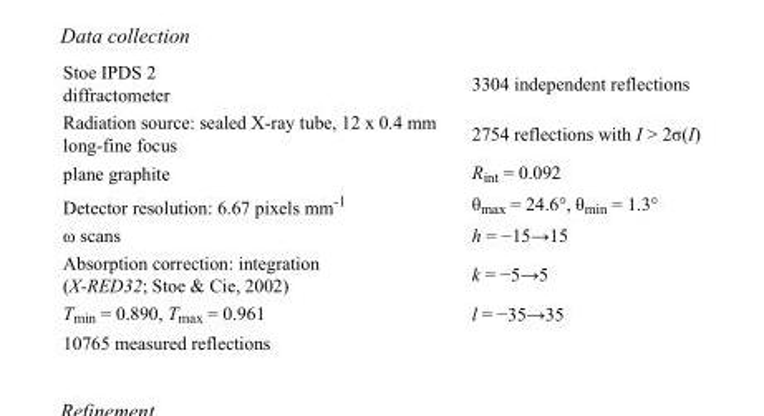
<table><tbody><tr><td>Stoe IPDS 2 diffractometer</td><td>3304 independent reflections</td></tr><tr><td>Radiation source: sealed X-ray tube, 12 x 0.4 mm long-fine focus</td><td>2754 reflections with I &gt; 2σ(I)</td></tr><tr><td>plane graphite</td><td>R<sub>int</sub> = 0.092</td></tr><tr><td>Detector resolution: 6.67 pixels mm<sup>-1</sup></td><td>θ<sub>max</sub> = 24.6°, θ<sub>min</sub> = 1.3°</td></tr><tr><td>ω scans</td><td>h = −15→15</td></tr><tr><td>Absorption correction: integration (X-RED32; Stoe &amp; Cie, 2002)</td><td>k = −5→5</td></tr><tr><td>T<sub>min</sub> = 0.890, T<sub>max</sub> = 0.961</td><td>l = −35→35</td></tr><tr><td>10765 measured reflections</td><td></td></tr></tbody></table>